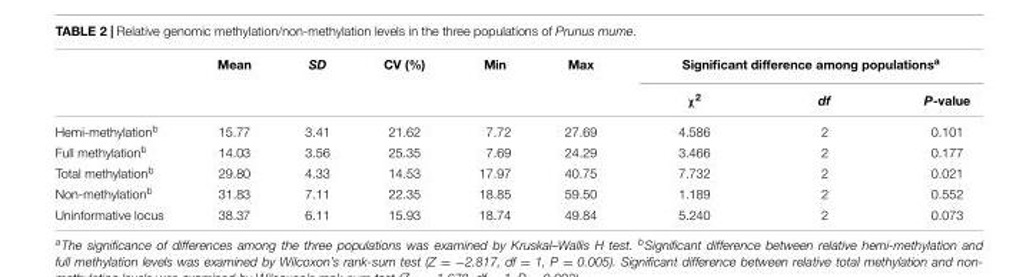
<table><thead><tr><td rowspan="2"></td><td rowspan="2">Mean</td><td rowspan="2">SD</td><td rowspan="2">CV (%)</td><td rowspan="2">Min</td><td rowspan="2">Max</td><td colspan="3">Significant difference among populations<sup>a</sup></td></tr><tr><td>χ<sup>2</sup></td><td>df</td><td>P-value</td></tr></thead><tbody><tr><td>Hemi-methylation<sup>b</sup></td><td>15.77</td><td>3.41</td><td>21.62</td><td>7.72</td><td>27.69</td><td>4.586</td><td>2</td><td>0.101</td></tr><tr><td>Full methylation<sup>b</sup></td><td>14.03</td><td>3.56</td><td>25.35</td><td>7.69</td><td>24.29</td><td>3.466</td><td>2</td><td>0.177</td></tr><tr><td>Total methylation<sup>b</sup></td><td>29.80</td><td>4.33</td><td>14.53</td><td>17.97</td><td>40.75</td><td>7.732</td><td>2</td><td>0.021</td></tr><tr><td>Non-methylation<sup>b</sup></td><td>31.83</td><td>7.11</td><td>22.35</td><td>18.85</td><td>59.50</td><td>1.189</td><td>2</td><td>0.552</td></tr><tr><td>Uninformative locus</td><td>38.37</td><td>6.11</td><td>15.93</td><td>18.74</td><td>49.84</td><td>5.240</td><td>2</td><td>0.073</td></tr></tbody></table>